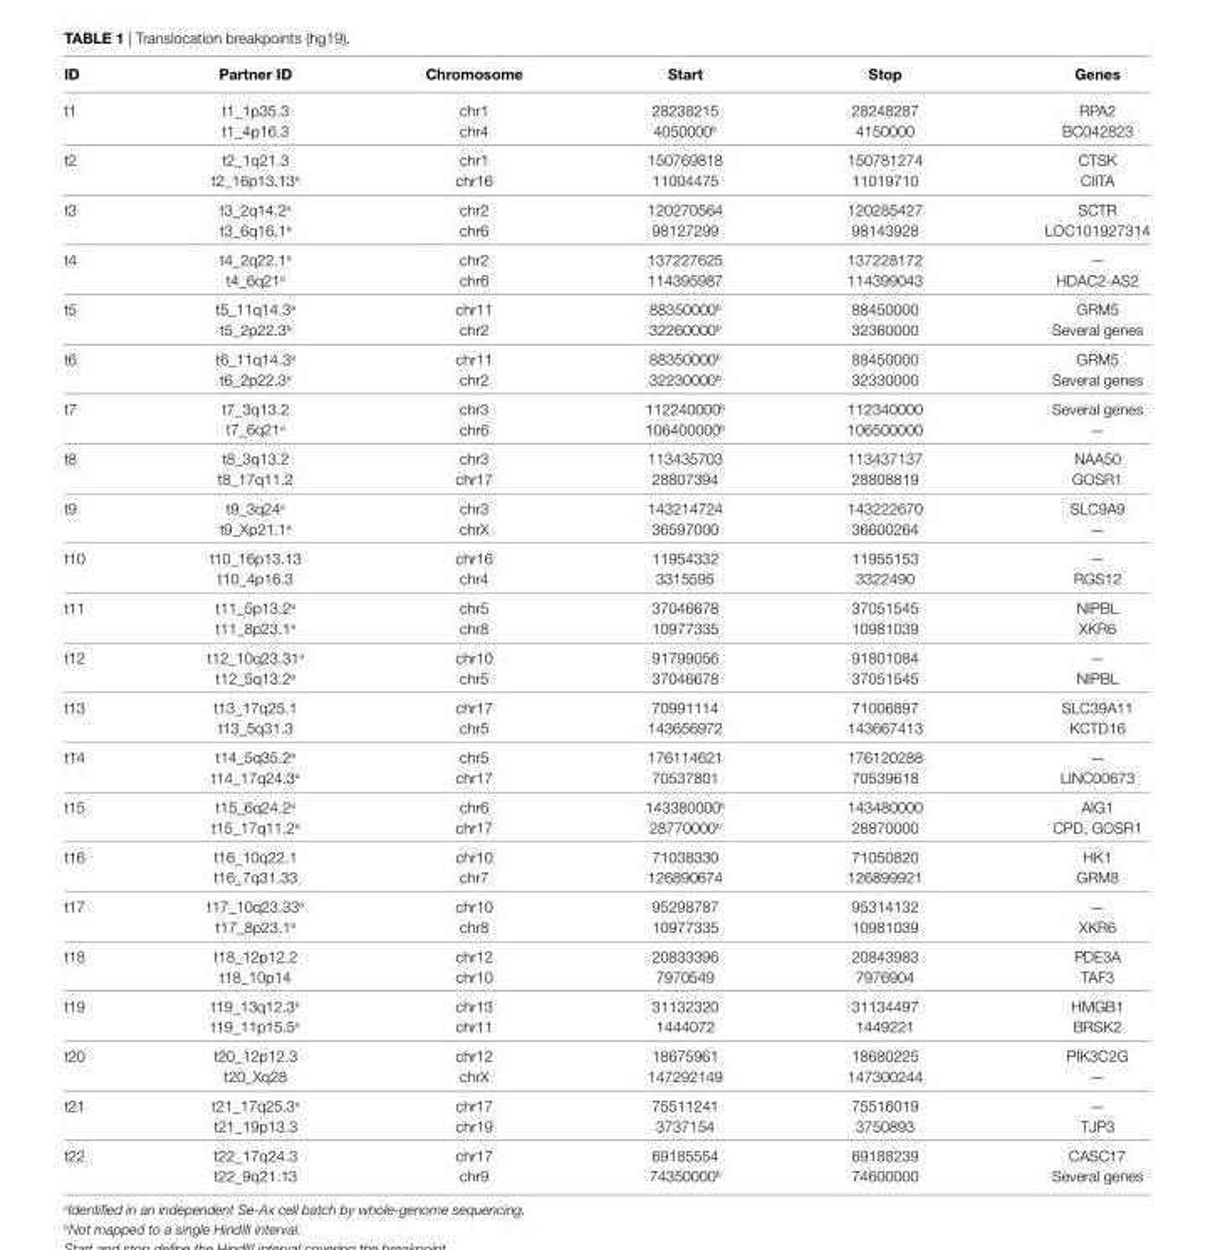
<table><thead><tr><td>iD</td><td>Partner iD</td><td>chromosome</td><td>start</td><td>stop</td><td>genes</td></tr></thead><tbody><tr><td rowspan="2">t1</td><td>t1_1p35.3</td><td>chr1</td><td>28238215</td><td>28248287</td><td>RPA2</td></tr><tr><td>t1_4p16.3</td><td>chr4</td><td>4050000<sup>b</sup></td><td>4150000</td><td>BC042823</td></tr><tr><td rowspan="2">t2</td><td>t2_1q21.3</td><td>chr1</td><td>150769818</td><td>150781274</td><td>CTSK</td></tr><tr><td>t2_16p13.13<sup>a</sup></td><td>chr16</td><td>11004475</td><td>11019710</td><td>CIITA</td></tr><tr><td rowspan="2">t3</td><td>t3_2q14.2<sup>a</sup></td><td>chr2</td><td>120270564</td><td>120285427</td><td>SCTR</td></tr><tr><td>t3_6q16.1<sup>a</sup></td><td>chr6</td><td>98127299</td><td>98143928</td><td>LOC101927314</td></tr><tr><td rowspan="2">t4</td><td>t4_2q22.1<sup>a</sup></td><td>chr2</td><td>137227625</td><td>137228172</td><td>—</td></tr><tr><td>t4_6q21<sup>a</sup></td><td>chr6</td><td>114395987</td><td>114399043</td><td>HDAC2-AS2</td></tr><tr><td rowspan="2">t5</td><td>t5_11q14.3<sup>a</sup></td><td>chr11</td><td>88350000<sup>b</sup></td><td>88450000</td><td>GRM5</td></tr><tr><td>t5_2p22.3<sup>a</sup></td><td>chr2</td><td>32260000<sup>b</sup></td><td>32360000</td><td>Several genes</td></tr><tr><td rowspan="2">t6</td><td>t6_11q14.3<sup>a</sup></td><td>chr11</td><td>88350000<sup>b</sup></td><td>88450000</td><td>GRM5</td></tr><tr><td>t6_2p22.3<sup>a</sup></td><td>chr2</td><td>32230000<sup>b</sup></td><td>32330000</td><td>Several genes</td></tr><tr><td rowspan="2">t7</td><td>t7_3q13.2</td><td>chr3</td><td>112240000<sup>b</sup></td><td>112340000</td><td>Several genes</td></tr><tr><td>t7_6q21<sup>a</sup></td><td>chr6</td><td>106400000<sup>b</sup></td><td>106500000</td><td>—</td></tr><tr><td rowspan="2">t8</td><td>t8_3q13.2</td><td>chr3</td><td>113435703</td><td>113437137</td><td>NAA50</td></tr><tr><td>t8_17q11.2</td><td>chr17</td><td>28807394</td><td>28808819</td><td>GOSR1</td></tr><tr><td rowspan="2">t9</td><td>t9_3q24<sup>a</sup></td><td>chr3</td><td>143214724</td><td>143222670</td><td>SLC9A9</td></tr><tr><td>t9_Xp21.1<sup>a</sup></td><td>chrX</td><td>36597000</td><td>36600264</td><td>—</td></tr><tr><td rowspan="2">t10</td><td>t10_16p13.13</td><td>chr16</td><td>11954332</td><td>11955153</td><td>—</td></tr><tr><td>t10_4p16.3</td><td>chr4</td><td>3315595</td><td>3322490</td><td>RGS12</td></tr><tr><td rowspan="2">t11</td><td>t11_5p13.2<sup>a</sup></td><td>chr5</td><td>37046678</td><td>37051545</td><td>NIPBL</td></tr><tr><td>t11_8p23.1<sup>a</sup></td><td>chr8</td><td>10977335</td><td>10981039</td><td>XKR6</td></tr><tr><td rowspan="2">t12</td><td>t12_10q23.31<sup>a</sup></td><td>chr10</td><td>91799056</td><td>91801084</td><td>—</td></tr><tr><td>t12_5q13.2<sup>a</sup></td><td>chr5</td><td>37046678</td><td>37051545</td><td>NIPBL</td></tr><tr><td rowspan="2">t13</td><td>t13_17q25.1</td><td>chr17</td><td>70991114</td><td>71006897</td><td>SLC39A11</td></tr><tr><td>t13_5q31.3</td><td>chr5</td><td>143656972</td><td>143667413</td><td>KCTD16</td></tr><tr><td rowspan="2">t14</td><td>t14_5q35.2<sup>a</sup></td><td>chr5</td><td>176114621</td><td>176120288</td><td>—</td></tr><tr><td>t14_17q24.3<sup>a</sup></td><td>chr17</td><td>70537801</td><td>70539618</td><td>LINC00673</td></tr><tr><td rowspan="2">t15</td><td>t15_6q24.2<sup>a</sup></td><td>chr6</td><td>143380000<sup>b</sup></td><td>143480000</td><td>AIG1</td></tr><tr><td>t15_17q11.2<sup>a</sup></td><td>chr17</td><td>28770000<sup>b</sup></td><td>28870000</td><td>CPD, GOSR1</td></tr><tr><td rowspan="2">t16</td><td>t16_10q22.1</td><td>chr10</td><td>71038330</td><td>71050820</td><td>HK1</td></tr><tr><td>t16_7q31.33</td><td>chr7</td><td>126890674</td><td>126899921</td><td>GRM8</td></tr><tr><td rowspan="2">t17</td><td>t17_10q23.33<sup>a</sup></td><td>chr10</td><td>95298787</td><td>95314132</td><td>—</td></tr><tr><td>t17_8p23.1<sup>a</sup></td><td>chr8</td><td>10977335</td><td>10981039</td><td>XKR6</td></tr><tr><td rowspan="2">t18</td><td>t18_12p12.2</td><td>chr12</td><td>20833396</td><td>20843983</td><td>PDE3A</td></tr><tr><td>t18_10p14</td><td>chr10</td><td>7970549</td><td>7976904</td><td>TAF3</td></tr><tr><td rowspan="2">t19</td><td>t19_13q12.3<sup>a</sup></td><td>chr13</td><td>31132320</td><td>31134497</td><td>HMGB1</td></tr><tr><td>t19_11p15.5<sup>a</sup></td><td>chr11</td><td>1444072</td><td>1449221</td><td>BRSK2</td></tr><tr><td rowspan="2">t20</td><td>t20_12p12.3</td><td>chr12</td><td>18675961</td><td>18680225</td><td>PIK3C2G</td></tr><tr><td>t20_Xq28</td><td>chrX</td><td>147292149</td><td>147300244</td><td>—</td></tr><tr><td rowspan="2">t21</td><td>t21_17q25.3<sup>a</sup></td><td>chr17</td><td>75511241</td><td>75516019</td><td>—</td></tr><tr><td>t21_19p13.3</td><td>chr19</td><td>3737154</td><td>3750893</td><td>TJP3</td></tr><tr><td rowspan="2">t22</td><td>t22_17q24.3</td><td>chr17</td><td>69185554</td><td>69188239</td><td>CASC17</td></tr><tr><td>t22_9q21.13</td><td>chr9</td><td>74350000<sup>b</sup></td><td>74600000</td><td>Several genes</td></tr></tbody></table>